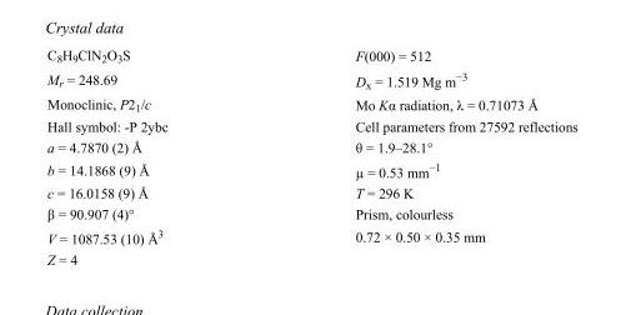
<table><tbody><tr><td>C<sub>8</sub>H<sub>9</sub>ClN<sub>2</sub>O<sub>3</sub>S</td><td>F(000) = 512</td></tr><tr><td>M<sub>r</sub> = 248.69</td><td>D<sub>x</sub> = 1.519 Mg m<sup>−3</sup></td></tr><tr><td>Monoclinic, P2<sub>1</sub>/c</td><td>Mo Kα radiation, λ = 0.71073 Å</td></tr><tr><td>Hall symbol: -P 2ybc</td><td>Cell parameters from 27592 reflections</td></tr><tr><td>a = 4.7870 (2) Å</td><td>θ = 1.9–28.1°</td></tr><tr><td>b = 14.1868 (9) Å</td><td>µ = 0.53 mm<sup>−1</sup></td></tr><tr><td>c = 16.0158 (9) Å</td><td>T = 296 K</td></tr><tr><td>β = 90.907 (4)°</td><td>Prism, colourless</td></tr><tr><td>V = 1087.53 (10) Å<sup>3</sup></td><td>0.72 × 0.50 × 0.35 mm</td></tr><tr><td>Z = 4</td><td></td></tr></tbody></table>